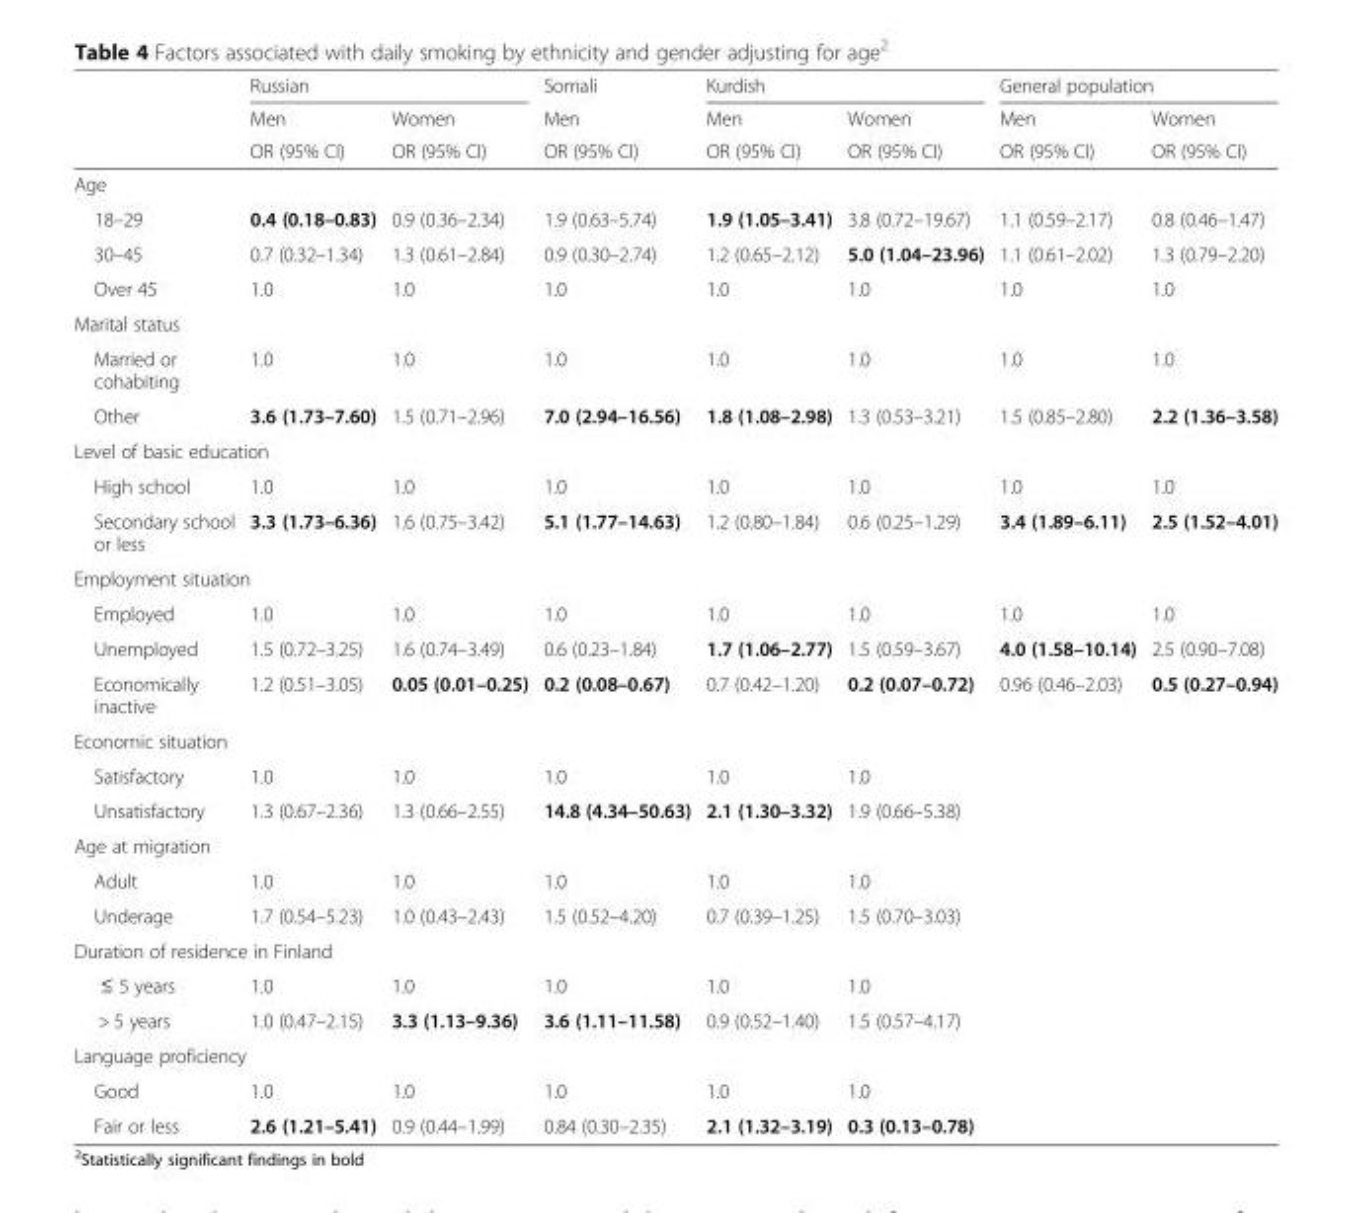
<table><thead><tr><td rowspan="3"></td><td colspan="2">Russian</td><td rowspan="3">Somali Men OR (95% CI)</td><td colspan="2">Kurdish</td><td colspan="2">General population</td></tr><tr><td rowspan="2">Men OR (95% CI)</td><td rowspan="2">Women OR (95% CI)</td><td rowspan="2">Men OR (95% CI)</td><td rowspan="2">Women OR (95% CI)</td><td rowspan="2">Men OR (95% CI)</td><td rowspan="2">Women OR (95% CI)</td></tr><tr></tr></thead><tbody><tr><td colspan="8">Age</td></tr><tr><td>18–29</td><td>0.4 (0.18–0.83)</td><td>0.9 (0.36–2.34)</td><td>1.9 (0.63–5.74)</td><td>1.9 (1.05–3.41)</td><td>3.8 (0.72–19.67)</td><td>1.1 (0.59–2.17)</td><td>0.8 (0.46–1.47)</td></tr><tr><td>30–45</td><td>0.7 (0.32–1.34)</td><td>1.3 (0.61–2.84)</td><td>0.9 (0.30–2.74)</td><td>1.2 (0.65–2.12)</td><td>5.0 (1.04–23.96)</td><td>1.1 (0.61–2.02)</td><td>1.3 (0.79–2.20)</td></tr><tr><td>Over 45</td><td>1.0</td><td>1.0</td><td>1.0</td><td>1.0</td><td>1.0</td><td>1.0</td><td>1.0</td></tr><tr><td colspan="8">Marital status</td></tr><tr><td>Married or cohabiting</td><td>1.0</td><td>1.0</td><td>1.0</td><td>1.0</td><td>1.0</td><td>1.0</td><td>1.0</td></tr><tr><td>Other</td><td>3.6 (1.73–7.60)</td><td>1.5 (0.71–2.96)</td><td>7.0 (2.94–16.56)</td><td>1.8 (1.08–2.98)</td><td>1.3 (0.53–3.21)</td><td>1.5 (0.85–2.80)</td><td>2.2 (1.36–3.58)</td></tr><tr><td colspan="8">Level of basic education</td></tr><tr><td>High school</td><td>1.0</td><td>1.0</td><td>1.0</td><td>1.0</td><td>1.0</td><td>1.0</td><td>1.0</td></tr><tr><td>Secondary school or less</td><td>3.3 (1.73–6.36)</td><td>1.6 (0.75–3.42)</td><td>5.1 (1.77–14.63)</td><td>1.2 (0.80–1.84)</td><td>0.6 (0.25–1.29)</td><td>3.4 (1.89–6.11)</td><td>2.5 (1.52–4.01)</td></tr><tr><td colspan="8">Employment situation</td></tr><tr><td>Employed</td><td>1.0</td><td>1.0</td><td>1.0</td><td>1.0</td><td>1.0</td><td>1.0</td><td>1.0</td></tr><tr><td>Unemployed</td><td>1.5 (0.72–3.25)</td><td>1.6 (0.74–3.49)</td><td>0.6 (0.23–1.84)</td><td>1.7 (1.06–2.77)</td><td>1.5 (0.59–3.67)</td><td>4.0 (1.58–10.14)</td><td>2.5 (0.90–7.08)</td></tr><tr><td>Economically inactive</td><td>1.2 (0.51–3.05)</td><td>0.05 (0.01–0.25)</td><td>0.2 (0.08–0.67)</td><td>0.7 (0.42–1.20)</td><td>0.2 (0.07–0.72)</td><td>0.96 (0.46–2.03)</td><td>0.5 (0.27–0.94)</td></tr><tr><td colspan="8">Economic situation</td></tr><tr><td>Satisfactory</td><td>1.0</td><td>1.0</td><td>1.0</td><td>1.0</td><td>1.0</td><td></td><td></td></tr><tr><td>Unsatisfactory</td><td>1.3 (0.67–2.36)</td><td>1.3 (0.66–2.55)</td><td>14.8 (4.34–50.63)</td><td>2.1 (1.30–3.32)</td><td>1.9 (0.66–5.38)</td><td></td><td></td></tr><tr><td colspan="8">Age at migration</td></tr><tr><td>Adult</td><td>1.0</td><td>1.0</td><td>1.0</td><td>1.0</td><td>1.0</td><td></td><td></td></tr><tr><td>Underage</td><td>1.7 (0.54–5.23)</td><td>1.0 (0.43–2.43)</td><td>1.5 (0.52–4.20)</td><td>0.7 (0.39–1.25)</td><td>1.5 (0.70–3.03)</td><td></td><td></td></tr><tr><td colspan="8">Duration of residence in Finland</td></tr><tr><td>≤ 5 years</td><td>1.0</td><td>1.0</td><td>1.0</td><td>1.0</td><td>1.0</td><td></td><td></td></tr><tr><td>&gt; 5 years</td><td>1.0 (0.47–2.15)</td><td>3.3 (1.13–9.36)</td><td>3.6 (1.11–11.58)</td><td>0.9 (0.52–1.40)</td><td>1.5 (0.57–4.17)</td><td></td><td></td></tr><tr><td colspan="8">Language proficiency</td></tr><tr><td>Good</td><td>1.0</td><td>1.0</td><td>1.0</td><td>1.0</td><td>1.0</td><td></td><td></td></tr><tr><td>Fair or less</td><td>2.6 (1.21–5.41)</td><td>0.9 (0.44–1.99)</td><td>0.84 (0.30–2.35)</td><td>2.1 (1.32–3.19)</td><td>0.3 (0.13–0.78)</td><td></td><td></td></tr></tbody></table>